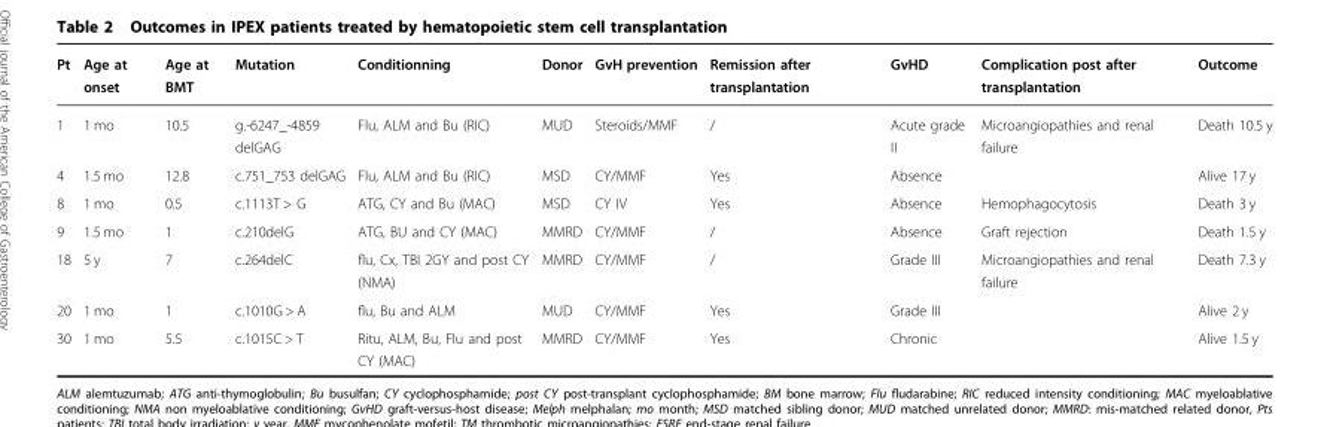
<table><thead><tr><td>Pt</td><td>Age at onset</td><td>Age at BMT</td><td>Mutation</td><td>Conditionning</td><td>Donor</td><td>GvH prevention</td><td>Remission after transplantation</td><td>GvHD</td><td>Complication post after transplantation</td><td>Outcome</td></tr></thead><tbody><tr><td>1</td><td>1 mo</td><td>10.5</td><td>g.-6247_-4859 delGAG</td><td>Flu, ALM and Bu (RIC)</td><td>MUD</td><td>Steroids/MMF</td><td>/</td><td>Acute grade II</td><td>Microangiopathies and renal failure</td><td>Death 10.5 y</td></tr><tr><td>4</td><td>1.5 mo</td><td>12.8</td><td>c.751_753 delGAG</td><td>Flu, ALM and Bu (RIC)</td><td>MSD</td><td>CY/MMF</td><td>Yes</td><td>Absence</td><td></td><td>Alive 17 y</td></tr><tr><td>8</td><td>1 mo</td><td>0.5</td><td>c.1113T &gt; G</td><td>ATG, CY and Bu (MAC)</td><td>MSD</td><td>CY IV</td><td>Yes</td><td>Absence</td><td>Hemophagocytosis</td><td>Death 3 y</td></tr><tr><td>9</td><td>1.5 mo</td><td>1</td><td>c.210delG</td><td>ATG, BU and CY (MAC)</td><td>MMRD</td><td>CY/MMF</td><td>/</td><td>Absence</td><td>Graft rejection</td><td>Death 1.5 y</td></tr><tr><td>18</td><td>5 y</td><td>7</td><td>c.264delC</td><td>flu, Cx, TBI 2GY and post CY (NMA)</td><td>MMRD</td><td>CY/MMF</td><td>/</td><td>Grade III</td><td>Microangiopathies and renal failure</td><td>Death 7.3 y</td></tr><tr><td>20</td><td>1 mo</td><td>1</td><td>c.1010G &gt; A</td><td>flu, Bu and ALM</td><td>MUD</td><td>CY/MMF</td><td>Yes</td><td>Grade III</td><td></td><td>Alive 2 y</td></tr><tr><td>30</td><td>1 mo</td><td>5.5</td><td>c.1015C &gt; T</td><td>Ritu, ALM, Bu, Flu and post CY (MAC)</td><td>MMRD</td><td>CY/MMF</td><td>Yes</td><td>Chronic</td><td></td><td>Alive 1.5 y</td></tr></tbody></table>